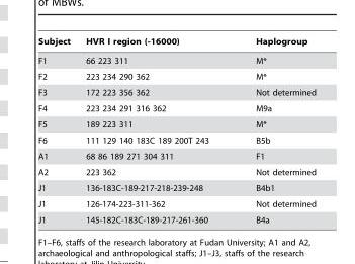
<table><thead><tr><td>Subject</td><td>HVR I region (-16000)</td><td>Haplogroup</td></tr></thead><tbody><tr><td>F1</td><td>66 223 311</td><td>M*</td></tr><tr><td>F2</td><td>223 234 290 362</td><td>M*</td></tr><tr><td>F3</td><td>172 223 356 362</td><td>Not determined</td></tr><tr><td>F4</td><td>223 234 291 316 362</td><td>M9a</td></tr><tr><td>F5</td><td>189 223 311</td><td>M*</td></tr><tr><td>F6</td><td>111 129 140 183C 189 200T 243</td><td>B5b</td></tr><tr><td>A1</td><td>68 86 189 271 304 311</td><td>F1</td></tr><tr><td>A2</td><td>223 362</td><td>Not determined</td></tr><tr><td>J1</td><td>136-183C-189-217-218-239-248</td><td>B4b1</td></tr><tr><td>J1</td><td>126-174-223-311-362</td><td>Not determined</td></tr><tr><td>J1</td><td>145-182C-183C-189-217-261-360</td><td>B4a</td></tr></tbody></table>